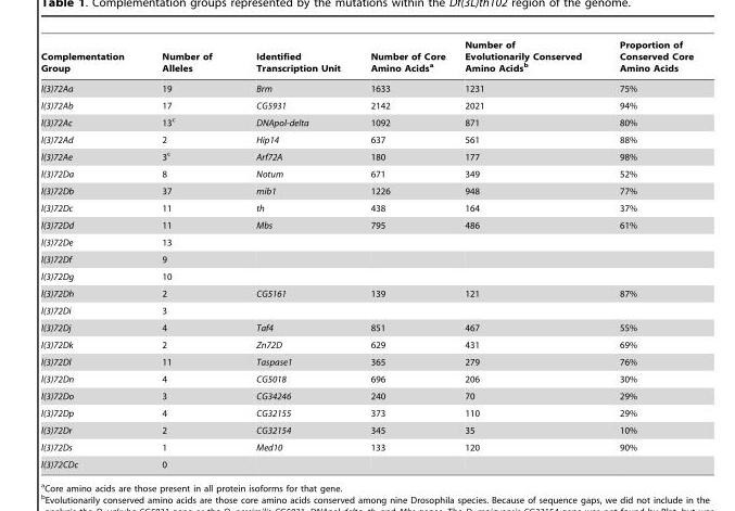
<table><thead><tr><td>Complementation Group</td><td>Number of Alleles</td><td>Identified Transcription Unit</td><td>Number of Core Amino Acids<sup>a</sup></td><td>Number of Evolutionarily Conserved Amino Acids<sup>b</sup></td><td>Proportion of Conserved Core Amino Acids</td></tr></thead><tbody><tr><td>l(3)72Aa</td><td>19</td><td>Brm</td><td>1633</td><td>1231</td><td>75%</td></tr><tr><td>l(3)72Ab</td><td>17</td><td>CG5931</td><td>2142</td><td>2021</td><td>94%</td></tr><tr><td>l(3)72Ac</td><td>13<sup>c</sup></td><td>DNApol-delta</td><td>1092</td><td>871</td><td>80%</td></tr><tr><td>l(3)72Ad</td><td>2</td><td>Hip14</td><td>637</td><td>561</td><td>88%</td></tr><tr><td>l(3)72Ae</td><td>3<sup>c</sup></td><td>Arf72A</td><td>180</td><td>177</td><td>98%</td></tr><tr><td>l(3)72Da</td><td>8</td><td>Notum</td><td>671</td><td>349</td><td>52%</td></tr><tr><td>l(3)72Db</td><td>37</td><td>mib1</td><td>1226</td><td>948</td><td>77%</td></tr><tr><td>l(3)72Dc</td><td>11</td><td>th</td><td>438</td><td>164</td><td>37%</td></tr><tr><td>l(3)72Dd</td><td>11</td><td>Mbs</td><td>795</td><td>486</td><td>61%</td></tr><tr><td>l(3)72De</td><td>13</td><td></td><td></td><td></td><td></td></tr><tr><td>l(3)72Df</td><td>9</td><td></td><td></td><td></td><td></td></tr><tr><td>l(3)72Dg</td><td>10</td><td></td><td></td><td></td><td></td></tr><tr><td>l(3)72Dh</td><td>2</td><td>CG5161</td><td>139</td><td>121</td><td>87%</td></tr><tr><td>l(3)72Di</td><td>3</td><td></td><td></td><td></td><td></td></tr><tr><td>l(3)72Dj</td><td>4</td><td>Taf4</td><td>851</td><td>467</td><td>55%</td></tr><tr><td>l(3)72Dk</td><td>2</td><td>Zn72D</td><td>629</td><td>431</td><td>69%</td></tr><tr><td>l(3)72Dl</td><td>11</td><td>Taspase1</td><td>365</td><td>279</td><td>76%</td></tr><tr><td>l(3)72Dn</td><td>4</td><td>CG5018</td><td>696</td><td>206</td><td>30%</td></tr><tr><td>l(3)72Do</td><td>3</td><td>CG34246</td><td>240</td><td>70</td><td>29%</td></tr><tr><td>l(3)72Dp</td><td>4</td><td>CG32155</td><td>373</td><td>110</td><td>29%</td></tr><tr><td>l(3)72Dr</td><td>2</td><td>CG32154</td><td>345</td><td>35</td><td>10%</td></tr><tr><td>l(3)72Ds</td><td>1</td><td>Med10</td><td>133</td><td>120</td><td>90%</td></tr><tr><td>l(3)72CDc</td><td>0</td><td></td><td></td><td></td><td></td></tr></tbody></table>